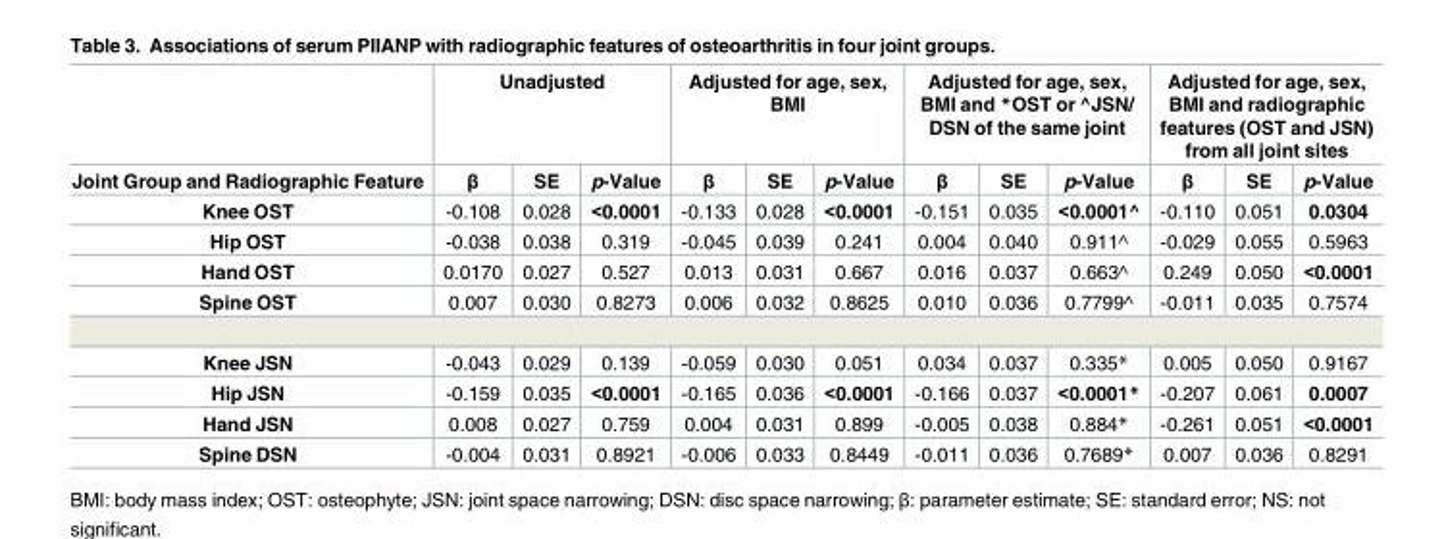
<table><thead><tr><td rowspan="2">Joint Group and Radiographic Feature</td><td colspan="3">Unadjusted</td><td colspan="3">Adjusted for age, sex, BMI</td><td colspan="3">Adjusted for age, sex, BMI and *OST or ^JSN/ DSN of the same joint</td><td colspan="3">Adjusted for age, sex, BMI and radiographic features (OST and JSN) from all joint sites</td></tr><tr><td>β</td><td>SE</td><td>p-Value</td><td>β</td><td>SE</td><td>p-Value</td><td>β</td><td>SE</td><td>p-Value</td><td>β</td><td>SE</td><td>p-Value</td></tr></thead><tbody><tr><td>Knee OST</td><td>-0.108</td><td>0.028</td><td>&lt;0.0001</td><td>-0.133</td><td>0.028</td><td>&lt;0.0001</td><td>-0.151</td><td>0.035</td><td>&lt;0.0001^</td><td>-0.110</td><td>0.051</td><td>0.0304</td></tr><tr><td>Hip OST</td><td>-0.038</td><td>0.038</td><td>0.319</td><td>-0.045</td><td>0.039</td><td>0.241</td><td>0.004</td><td>0.040</td><td>0.911^</td><td>-0.029</td><td>0.055</td><td>0.5963</td></tr><tr><td>Hand OST</td><td>0.0170</td><td>0.027</td><td>0.527</td><td>0.013</td><td>0.031</td><td>0.667</td><td>0.016</td><td>0.037</td><td>0.663^</td><td>0.249</td><td>0.050</td><td>&lt;0.0001</td></tr><tr><td>Spine OST</td><td>0.007</td><td>0.030</td><td>0.8273</td><td>0.006</td><td>0.032</td><td>0.8625</td><td>0.010</td><td>0.036</td><td>0.7799^</td><td>-0.011</td><td>0.035</td><td>0.7574</td></tr><tr><td>Knee JSN</td><td>-0.043</td><td>0.029</td><td>0.139</td><td>-0.059</td><td>0.030</td><td>0.051</td><td>0.034</td><td>0.037</td><td>0.335*</td><td>0.005</td><td>0.050</td><td>0.9167</td></tr><tr><td>Hip JSN</td><td>-0.159</td><td>0.035</td><td>&lt;0.0001</td><td>-0.165</td><td>0.036</td><td>&lt;0.0001</td><td>-0.166</td><td>0.037</td><td>&lt;0.0001*</td><td>-0.207</td><td>0.061</td><td>0.0007</td></tr><tr><td>Hand JSN</td><td>0.008</td><td>0.027</td><td>0.759</td><td>0.004</td><td>0.031</td><td>0.899</td><td>-0.005</td><td>0.038</td><td>0.884*</td><td>-0.261</td><td>0.051</td><td>&lt;0.0001</td></tr><tr><td>Spine DSN</td><td>-0.004</td><td>0.031</td><td>0.8921</td><td>-0.006</td><td>0.033</td><td>0.8449</td><td>-0.011</td><td>0.036</td><td>0.7689*</td><td>0.007</td><td>0.036</td><td>0.8291</td></tr></tbody></table>